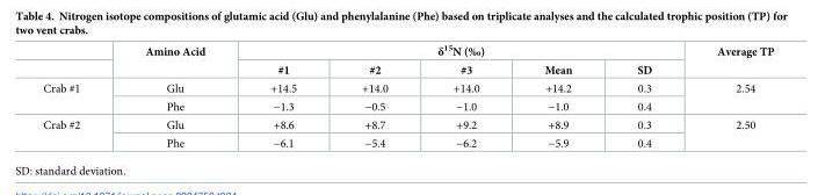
<table><thead><tr><td rowspan="2"></td><td rowspan="2">Amino Acid</td><td colspan="5">δ<sup>15</sup>N (‰)</td><td rowspan="2">Average TP</td></tr><tr><td>#1</td><td>#2</td><td>#3</td><td>Mean</td><td>SD</td></tr></thead><tbody><tr><td rowspan="2">Crab #1</td><td>Glu</td><td>+14.5</td><td>+14.0</td><td>+14.0</td><td>+14.2</td><td>0.3</td><td rowspan="2">2.54</td></tr><tr><td>Phe</td><td>−1.3</td><td>−0.5</td><td>−1.0</td><td>−1.0</td><td>0.4</td></tr><tr><td rowspan="2">Crab #2</td><td>Glu</td><td>+8.6</td><td>+8.7</td><td>+9.2</td><td>+8.9</td><td>0.3</td><td rowspan="2">2.50</td></tr><tr><td>Phe</td><td>−6.1</td><td>−5.4</td><td>−6.2</td><td>−5.9</td><td>0.4</td></tr></tbody></table>